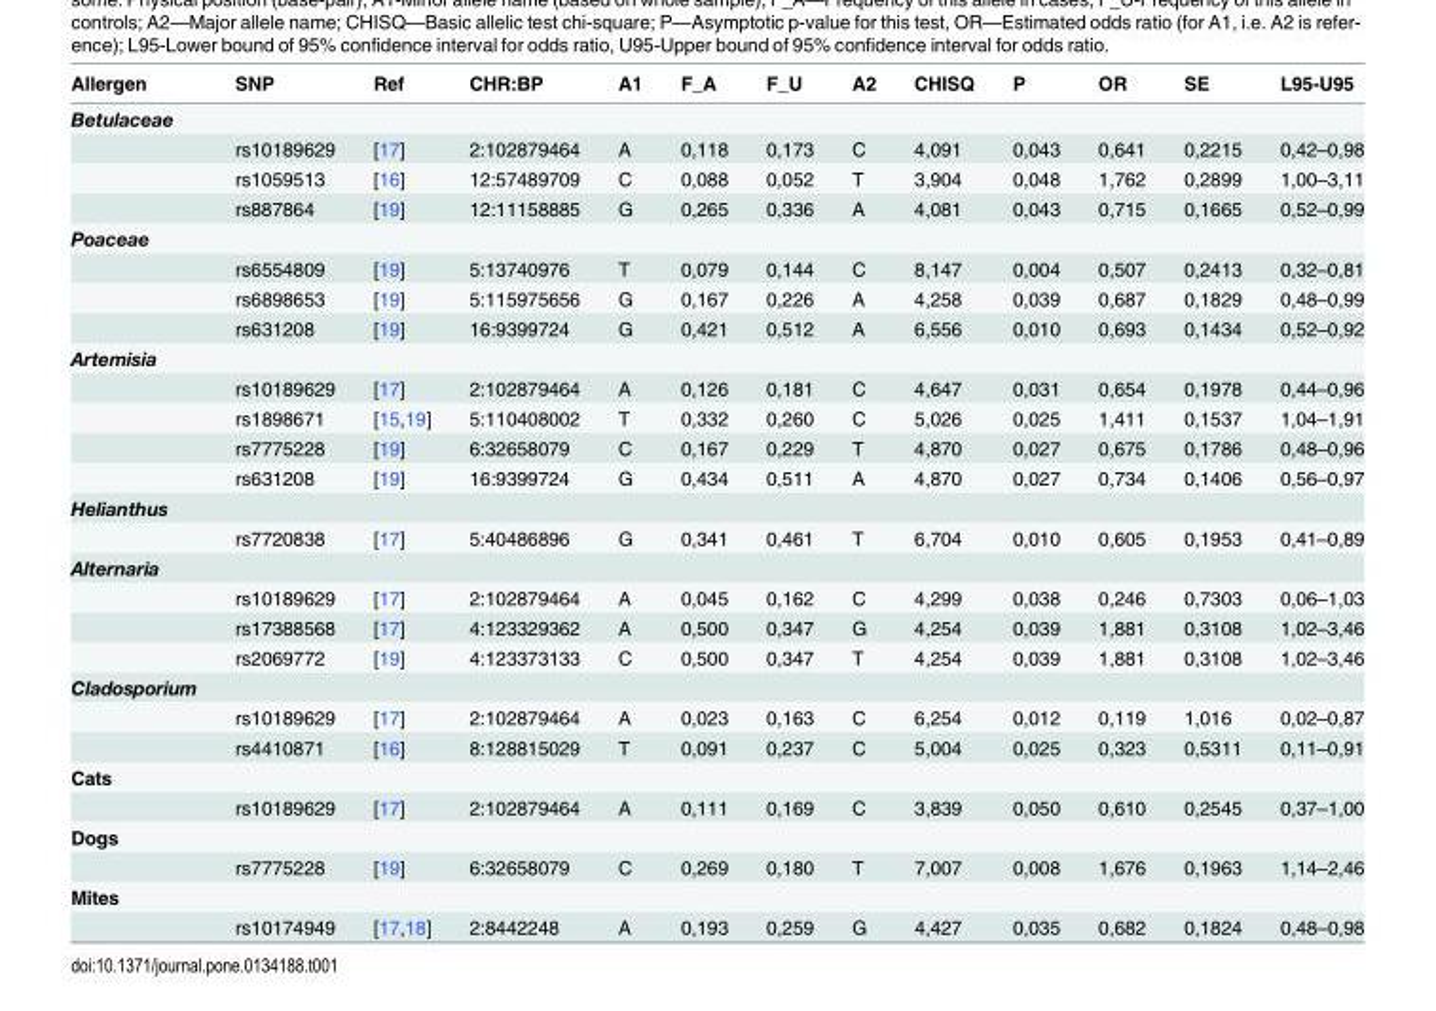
<table><thead><tr><td>Allergen</td><td>SNP</td><td>Ref</td><td>CHR:BP</td><td>A1</td><td>F_A</td><td>F_U</td><td>A2</td><td>CHISQ</td><td>P</td><td>OR</td><td>SE</td><td>L95-U95</td></tr></thead><tbody><tr><td colspan="13">Betulaceae</td></tr><tr><td></td><td>rs10189629</td><td>[17]</td><td>2:102879464</td><td>A</td><td>0,118</td><td>0,173</td><td>C</td><td>4,091</td><td>0,043</td><td>0,641</td><td>0,2215</td><td>0,42–0,98</td></tr><tr><td></td><td>rs1059513</td><td>[16]</td><td>12:57489709</td><td>C</td><td>0,088</td><td>0,052</td><td>T</td><td>3,904</td><td>0,048</td><td>1,762</td><td>0,2899</td><td>1,00–3,11</td></tr><tr><td></td><td>rs887864</td><td>[19]</td><td>12:11158885</td><td>G</td><td>0,265</td><td>0,336</td><td>A</td><td>4,081</td><td>0,043</td><td>0,715</td><td>0,1665</td><td>0,52–0,99</td></tr><tr><td colspan="13">Poaceae</td></tr><tr><td></td><td>rs6554809</td><td>[19]</td><td>5:13740976</td><td>T</td><td>0,079</td><td>0,144</td><td>C</td><td>8,147</td><td>0,004</td><td>0,507</td><td>0,2413</td><td>0,32–0,81</td></tr><tr><td></td><td>rs6898653</td><td>[19]</td><td>5:115975656</td><td>G</td><td>0,167</td><td>0,226</td><td>A</td><td>4,258</td><td>0,039</td><td>0,687</td><td>0,1829</td><td>0,48–0,99</td></tr><tr><td></td><td>rs631208</td><td>[19]</td><td>16:9399724</td><td>G</td><td>0,421</td><td>0,512</td><td>A</td><td>6,556</td><td>0,010</td><td>0,693</td><td>0,1434</td><td>0,52–0,92</td></tr><tr><td colspan="13">Artemisia</td></tr><tr><td></td><td>rs10189629</td><td>[17]</td><td>2:102879464</td><td>A</td><td>0,126</td><td>0,181</td><td>C</td><td>4,647</td><td>0,031</td><td>0,654</td><td>0,1978</td><td>0,44–0,96</td></tr><tr><td></td><td>rs1898671</td><td>[15,19]</td><td>5:110408002</td><td>T</td><td>0,332</td><td>0,260</td><td>C</td><td>5,026</td><td>0,025</td><td>1,411</td><td>0,1537</td><td>1,04–1,91</td></tr><tr><td></td><td>rs7775228</td><td>[19]</td><td>6:32658079</td><td>C</td><td>0,167</td><td>0,229</td><td>T</td><td>4,870</td><td>0,027</td><td>0,675</td><td>0,1786</td><td>0,48–0,96</td></tr><tr><td></td><td>rs631208</td><td>[19]</td><td>16:9399724</td><td>G</td><td>0,434</td><td>0,511</td><td>A</td><td>4,870</td><td>0,027</td><td>0,734</td><td>0,1406</td><td>0,56–0,97</td></tr><tr><td colspan="13">Helianthus</td></tr><tr><td></td><td>rs7720838</td><td>[17]</td><td>5:40486896</td><td>G</td><td>0,341</td><td>0,461</td><td>T</td><td>6,704</td><td>0,010</td><td>0,605</td><td>0,1953</td><td>0,41–0,89</td></tr><tr><td colspan="13">Alternaria</td></tr><tr><td></td><td>rs10189629</td><td>[17]</td><td>2:102879464</td><td>A</td><td>0,045</td><td>0,162</td><td>C</td><td>4,299</td><td>0,038</td><td>0,246</td><td>0,7303</td><td>0,06–1,03</td></tr><tr><td></td><td>rs17388568</td><td>[17]</td><td>4:123329362</td><td>A</td><td>0,500</td><td>0,347</td><td>G</td><td>4,254</td><td>0,039</td><td>1,881</td><td>0,3108</td><td>1,02–3,46</td></tr><tr><td></td><td>rs2069772</td><td>[19]</td><td>4:123373133</td><td>C</td><td>0,500</td><td>0,347</td><td>T</td><td>4,254</td><td>0,039</td><td>1,881</td><td>0,3108</td><td>1,02–3,46</td></tr><tr><td colspan="13">Cladosporium</td></tr><tr><td></td><td>rs10189629</td><td>[17]</td><td>2:102879464</td><td>A</td><td>0,023</td><td>0,163</td><td>C</td><td>6,254</td><td>0,012</td><td>0,119</td><td>1,016</td><td>0,02–0,87</td></tr><tr><td></td><td>rs4410871</td><td>[16]</td><td>8:128815029</td><td>T</td><td>0,091</td><td>0,237</td><td>C</td><td>5,004</td><td>0,025</td><td>0,323</td><td>0,5311</td><td>0,11–0,91</td></tr><tr><td colspan="13">Cats</td></tr><tr><td></td><td>rs10189629</td><td>[17]</td><td>2:102879464</td><td>A</td><td>0,111</td><td>0,169</td><td>C</td><td>3,839</td><td>0,050</td><td>0,610</td><td>0,2545</td><td>0,37–1,00</td></tr><tr><td colspan="13">Dogs</td></tr><tr><td></td><td>rs7775228</td><td>[19]</td><td>6:32658079</td><td>C</td><td>0,269</td><td>0,180</td><td>T</td><td>7,007</td><td>0,008</td><td>1,676</td><td>0,1963</td><td>1,14–2,46</td></tr><tr><td colspan="13">Mites</td></tr><tr><td></td><td>rs10174949</td><td>[17,18]</td><td>2:8442248</td><td>A</td><td>0,193</td><td>0,259</td><td>G</td><td>4,427</td><td>0,035</td><td>0,682</td><td>0,1824</td><td>0,48–0,98</td></tr></tbody></table>